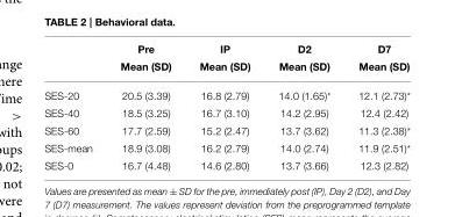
<table><thead><tr><td></td><td>Pre Mean (SD)</td><td>IP Mean (SD)</td><td>D2 Mean (SD)</td><td>D7 Mean (SD)</td></tr></thead><tbody><tr><td>SES-20</td><td>20.5 (3.39)</td><td>16.8 (2.79)</td><td>14.0 (1.65)*</td><td>12.1 (2.73)*</td></tr><tr><td>SES-40</td><td>18.5 (3.25)</td><td>16.7 (3.10)</td><td>14.2 (2.95)</td><td>12.4 (2.42)</td></tr><tr><td>SES-60</td><td>17.7 (2.59)</td><td>15.2 (2.47)</td><td>13.7 (3.62)</td><td>11.3 (2.38)*</td></tr><tr><td>SES-mean</td><td>18.9 (3.08)</td><td>16.2 (2.79)</td><td>14.0 (2.74)</td><td>11.9 (2.51)*</td></tr><tr><td>SES-0</td><td>16.7 (4.48)</td><td>14.6 (2.80)</td><td>13.7 (3.66)</td><td>12.3 (2.82)</td></tr></tbody></table>